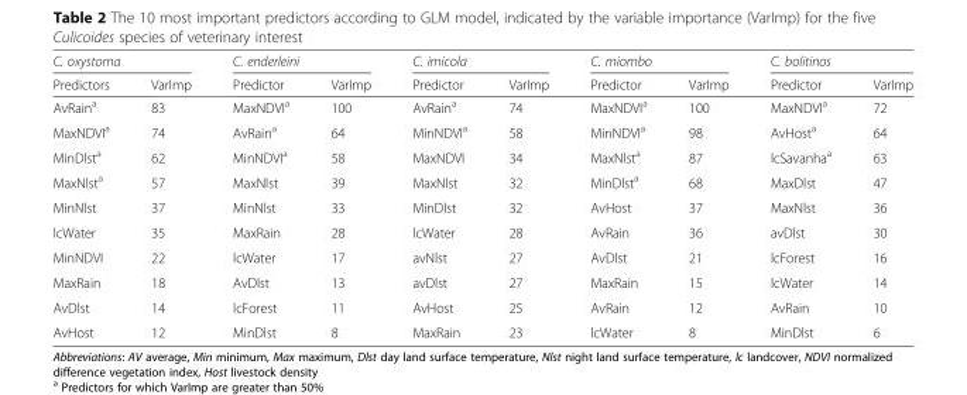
<table><thead><tr><td colspan="2">C. oxystoma</td><td colspan="2">C. enderleini</td><td colspan="2">C. imicola</td><td colspan="2">C. miombo</td><td colspan="2">C. bolitinos</td></tr><tr><td>Predictors</td><td>VarImp</td><td>Predictor</td><td>VarImp</td><td>Predictor</td><td>VarImp</td><td>Predictor</td><td>VarImp</td><td>Predictor</td><td>VarImp</td></tr></thead><tbody><tr><td>AvRain<sup>a</sup></td><td>83</td><td>MaxNDVI<sup>a</sup></td><td>100</td><td>AvRain<sup>a</sup></td><td>74</td><td>MaxNDVI<sup>a</sup></td><td>100</td><td>MaxNDVI<sup>a</sup></td><td>72</td></tr><tr><td>MaxNDVI<sup>a</sup></td><td>74</td><td>AvRain<sup>a</sup></td><td>64</td><td>MinNDVI<sup>a</sup></td><td>58</td><td>MinNDVI<sup>a</sup></td><td>98</td><td>AvHost<sup>a</sup></td><td>64</td></tr><tr><td>MinDlst<sup>a</sup></td><td>62</td><td>MinNDVI<sup>a</sup></td><td>58</td><td>MaxNDVI</td><td>34</td><td>MaxNlst<sup>a</sup></td><td>87</td><td>lcSavanha<sup>a</sup></td><td>63</td></tr><tr><td>MaxNlst<sup>a</sup></td><td>57</td><td>MaxNlst</td><td>39</td><td>MaxNlst</td><td>32</td><td>MinDlst<sup>a</sup></td><td>68</td><td>MaxDlst</td><td>47</td></tr><tr><td>MinNlst</td><td>37</td><td>MinNlst</td><td>33</td><td>MinDlst</td><td>32</td><td>AvHost</td><td>37</td><td>MaxNlst</td><td>36</td></tr><tr><td>lcWater</td><td>35</td><td>MaxRain</td><td>28</td><td>lcWater</td><td>28</td><td>AvRain</td><td>36</td><td>avDlst</td><td>30</td></tr><tr><td>MinNDVI</td><td>22</td><td>lcWater</td><td>17</td><td>avNlst</td><td>27</td><td>AvDlst</td><td>21</td><td>lcForest</td><td>16</td></tr><tr><td>MaxRain</td><td>18</td><td>AvDlst</td><td>13</td><td>avDlst</td><td>27</td><td>MaxRain</td><td>15</td><td>lcWater</td><td>14</td></tr><tr><td>AvDlst</td><td>14</td><td>lcForest</td><td>11</td><td>AvHost</td><td>25</td><td>AvRain</td><td>12</td><td>AvRain</td><td>10</td></tr><tr><td>AvHost</td><td>12</td><td>MinDlst</td><td>8</td><td>MaxRain</td><td>23</td><td>lcWater</td><td>8</td><td>MinDlst</td><td>6</td></tr></tbody></table>